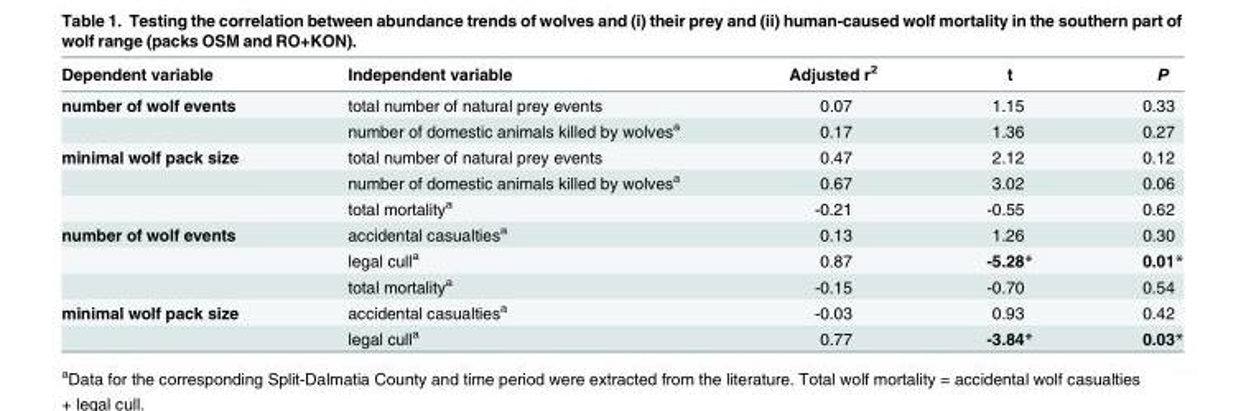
<table><thead><tr><td>Dependent variable</td><td>Independent variable</td><td>Adjusted r<sup>2</sup></td><td>t</td><td>P</td></tr></thead><tbody><tr><td rowspan="2">number of wolf events</td><td>total number of natural prey events</td><td>0.07</td><td>1.15</td><td>0.33</td></tr><tr><td>number of domestic animals killed by wolves<sup>a</sup></td><td>0.17</td><td>1.36</td><td>0.27</td></tr><tr><td rowspan="3">minimal wolf pack size</td><td>total number of natural prey events</td><td>0.47</td><td>2.12</td><td>0.12</td></tr><tr><td>number of domestic animals killed by wolves<sup>a</sup></td><td>0.67</td><td>3.02</td><td>0.06</td></tr><tr><td>total mortality<sup>a</sup></td><td>-0.21</td><td>-0.55</td><td>0.62</td></tr><tr><td rowspan="3">number of wolf events</td><td>accidental casualties<sup>a</sup></td><td>0.13</td><td>1.26</td><td>0.30</td></tr><tr><td>legal cull<sup>a</sup></td><td>0.87</td><td>-5.28*</td><td>0.01*</td></tr><tr><td>total mortality<sup>a</sup></td><td>-0.15</td><td>-0.70</td><td>0.54</td></tr><tr><td rowspan="2">minimal wolf pack size</td><td>accidental casualties<sup>a</sup></td><td>-0.03</td><td>0.93</td><td>0.42</td></tr><tr><td>legal cull<sup>a</sup></td><td>0.77</td><td>-3.84*</td><td>0.03*</td></tr></tbody></table>